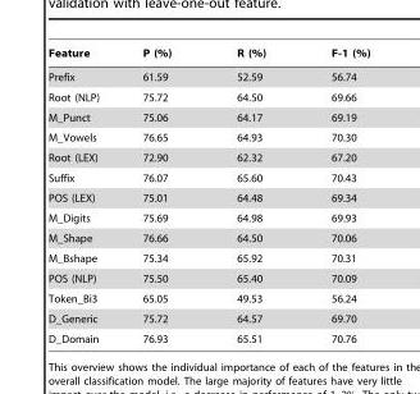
<table><thead><tr><td>Feature</td><td>P (%)</td><td>R (%)</td><td>F-1 (%)</td></tr></thead><tbody><tr><td>Prefix</td><td>61.59</td><td>52.59</td><td>56.74</td></tr><tr><td>Root (NLP)</td><td>75.72</td><td>64.50</td><td>69.66</td></tr><tr><td>M_Punct</td><td>75.06</td><td>64.17</td><td>69.19</td></tr><tr><td>M_Vowels</td><td>76.65</td><td>64.93</td><td>70.30</td></tr><tr><td>Root (LEX)</td><td>72.90</td><td>62.32</td><td>67.20</td></tr><tr><td>Suffix</td><td>76.07</td><td>65.60</td><td>70.43</td></tr><tr><td>POS (LEX)</td><td>75.01</td><td>64.48</td><td>69.34</td></tr><tr><td>M_Digits</td><td>75.69</td><td>64.98</td><td>69.93</td></tr><tr><td>M_Shape</td><td>76.66</td><td>64.50</td><td>70.06</td></tr><tr><td>M_Bshape</td><td>75.34</td><td>65.92</td><td>70.31</td></tr><tr><td>POS (NLP)</td><td>75.50</td><td>65.40</td><td>70.09</td></tr><tr><td>Token_Bi3</td><td>65.05</td><td>49.53</td><td>56.24</td></tr><tr><td>D_Generic</td><td>75.72</td><td>64.57</td><td>69.70</td></tr><tr><td>D_Domain</td><td>76.93</td><td>65.51</td><td>70.76</td></tr></tbody></table>